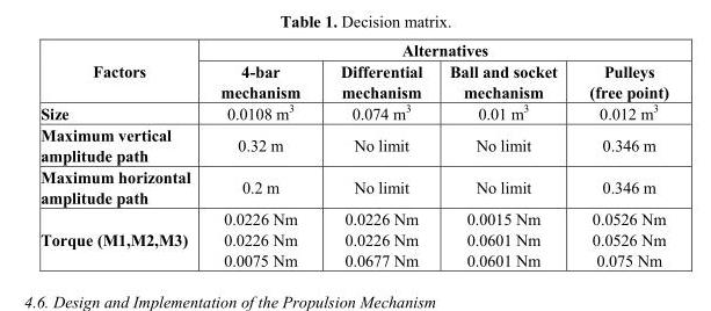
<table><thead><tr><td rowspan="2">Factors</td><td colspan="4">Alternatives</td></tr><tr><td>4-bar mechanism</td><td>Differential mechanism</td><td>Ball and socket mechanism</td><td>Pulleys (free point)</td></tr></thead><tbody><tr><td>Size</td><td>0.0108 m<sup>3</sup></td><td>0.074 m<sup>3</sup></td><td>0.01 m<sup>3</sup></td><td>0.012 m<sup>3</sup></td></tr><tr><td>Maximum vertical amplitude path</td><td>0.32 m</td><td>No limit</td><td>No limit</td><td>0.346 m</td></tr><tr><td>Maximum horizontal amplitude path</td><td>0.2 m</td><td>No limit</td><td>No limit</td><td>0.346 m</td></tr><tr><td>Torque (M1,M2,M3)</td><td>0.0226 Nm 0.0226 Nm 0.0075 Nm</td><td>0.0226 Nm 0.0226 Nm 0.0677 Nm</td><td>0.0015 Nm 0.0601 Nm 0.0601 Nm</td><td>0.0526 Nm 0.0526 Nm 0.075 Nm</td></tr></tbody></table>